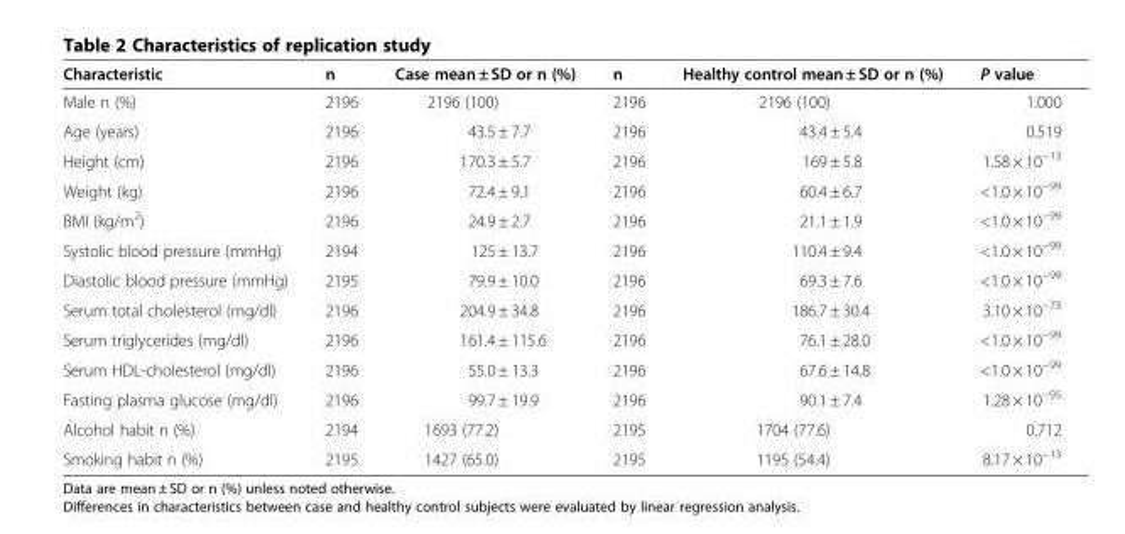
<table><thead><tr><td>Characteristic</td><td>n</td><td>Case mean ± SD or n (%)</td><td>n</td><td>Healthy control mean ± SD or n (%)</td><td>P value</td></tr></thead><tbody><tr><td>Male n (%)</td><td>2196</td><td>2196 (100)</td><td>2196</td><td>2196 (100)</td><td>1.000</td></tr><tr><td>Age (years)</td><td>2196</td><td>43.5 ± 7.7</td><td>2196</td><td>43.4 ± 5.4</td><td>0.519</td></tr><tr><td>Height (cm)</td><td>2196</td><td>170.3 ± 5.7</td><td>2196</td><td>169 ± 5.8</td><td>1.58 × 10<sup>−13</sup></td></tr><tr><td>Weight (kg)</td><td>2196</td><td>72.4 ± 9.1</td><td>2196</td><td>60.4 ± 6.7</td><td>&lt;1.0 × 10<sup>−99</sup></td></tr><tr><td>BMI (kg/m<sup>2</sup>)</td><td>2196</td><td>24.9 ± 2.7</td><td>2196</td><td>21.1 ± 1.9</td><td>&lt;1.0 × 10<sup>−99</sup></td></tr><tr><td>Systolic blood pressure (mmHg)</td><td>2194</td><td>125 ± 13.7</td><td>2196</td><td>110.4 ± 9.4</td><td>&lt;1.0 × 10<sup>−99</sup></td></tr><tr><td>Diastolic blood pressure (mmHg)</td><td>2195</td><td>79.9 ± 10.0</td><td>2196</td><td>69.3 ± 7.6</td><td>&lt;1.0 × 10<sup>−99</sup></td></tr><tr><td>Serum total cholesterol (mg/dl)</td><td>2196</td><td>204.9 ± 34.8</td><td>2196</td><td>186.7 ± 30.4</td><td>3.10 × 10<sup>−73</sup></td></tr><tr><td>Serum triglycerides (mg/dl)</td><td>2196</td><td>161.4 ± 115.6</td><td>2196</td><td>76.1 ± 28.0</td><td>&lt;1.0 × 10<sup>−99</sup></td></tr><tr><td>Serum HDL-cholesterol (mg/dl)</td><td>2196</td><td>55.0 ± 13.3</td><td>2196</td><td>67.6 ± 14.8</td><td>&lt;1.0 × 10<sup>−99</sup></td></tr><tr><td>Fasting plasma glucose (mg/dl)</td><td>2196</td><td>99.7 ± 19.9</td><td>2196</td><td>90.1 ± 7.4</td><td>1.28 × 10<sup>−95</sup></td></tr><tr><td>Alcohol habit n (%)</td><td>2194</td><td>1693 (77.2)</td><td>2195</td><td>1704 (77.6)</td><td>0.712</td></tr><tr><td>Smoking habit n (%)</td><td>2195</td><td>1427 (65.0)</td><td>2195</td><td>1195 (54.4)</td><td>8.17 × 10<sup>−13</sup></td></tr></tbody></table>